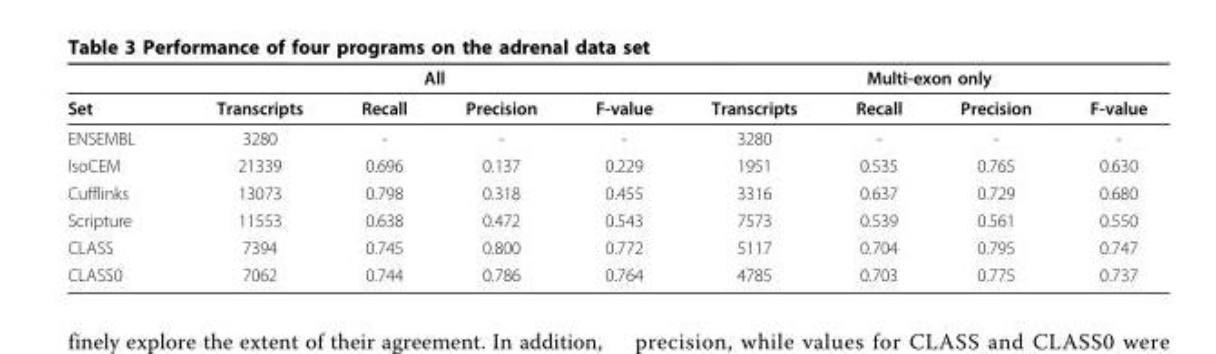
<table><thead><tr><td rowspan="2">Set</td><td colspan="4">All</td><td colspan="4">Multi-exon only</td></tr><tr><td>Transcripts</td><td>Recall</td><td>Precision</td><td>F-value</td><td>Transcripts</td><td>Recall</td><td>Precision</td><td>F-value</td></tr></thead><tbody><tr><td>ENSEMBL</td><td>3280</td><td>-</td><td>-</td><td>-</td><td>3280</td><td>-</td><td>-</td><td>-</td></tr><tr><td>IsoCEM</td><td>21339</td><td>0.696</td><td>0.137</td><td>0.229</td><td>1951</td><td>0.535</td><td>0.765</td><td>0.630</td></tr><tr><td>Cufflinks</td><td>13073</td><td>0.798</td><td>0.318</td><td>0.455</td><td>3316</td><td>0.637</td><td>0.729</td><td>0.680</td></tr><tr><td>Scripture</td><td>11553</td><td>0.638</td><td>0.472</td><td>0.543</td><td>7573</td><td>0.539</td><td>0.561</td><td>0.550</td></tr><tr><td>CLASS</td><td>7394</td><td>0.745</td><td>0.800</td><td>0.772</td><td>5117</td><td>0.704</td><td>0.795</td><td>0.747</td></tr><tr><td>CLASS0</td><td>7062</td><td>0.744</td><td>0.786</td><td>0.764</td><td>4785</td><td>0.703</td><td>0.775</td><td>0.737</td></tr></tbody></table>